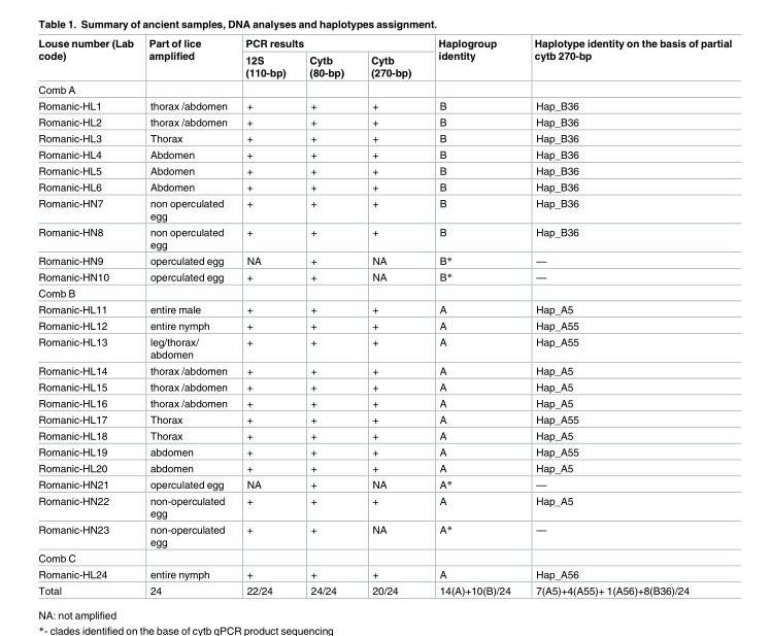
<table><thead><tr><td rowspan="2">Louse number (Lab code)</td><td rowspan="2">Part of lice amplified</td><td colspan="3">PCR results</td><td rowspan="2">Haplogroup identity</td><td rowspan="2">Haplotype identity on the basis of partial cytb 270-bp</td></tr><tr><td>12S (110-bp)</td><td>Cytb (80-bp)</td><td>Cytb (270-bp)</td></tr></thead><tbody><tr><td colspan="7">Comb A</td></tr><tr><td>Romanic-HL1</td><td>thorax /abdomen</td><td>+</td><td>+</td><td>+</td><td>B</td><td>Hap_B36</td></tr><tr><td>Romanic-HL2</td><td>thorax /abdomen</td><td>+</td><td>+</td><td>+</td><td>B</td><td>Hap_B36</td></tr><tr><td>Romanic-HL3</td><td>Thorax</td><td>+</td><td>+</td><td>+</td><td>B</td><td>Hap_B36</td></tr><tr><td>Romanic-HL4</td><td>Abdomen</td><td>+</td><td>+</td><td>+</td><td>B</td><td>Hap_B36</td></tr><tr><td>Romanic-HL5</td><td>Abdomen</td><td>+</td><td>+</td><td>+</td><td>B</td><td>Hap_B36</td></tr><tr><td>Romanic-HL6</td><td>Abdomen</td><td>+</td><td>+</td><td>+</td><td>B</td><td>Hap_B36</td></tr><tr><td>Romanic-HN7</td><td>non operculated egg</td><td>+</td><td>+</td><td>+</td><td>B</td><td>Hap_B36</td></tr><tr><td>Romanic-HN8</td><td>non operculated egg</td><td>+</td><td>+</td><td>+</td><td>B</td><td>Hap_B36</td></tr><tr><td>Romanic-HN9</td><td>operculated egg</td><td>NA</td><td>+</td><td>NA</td><td>B*</td><td>—</td></tr><tr><td>Romanic-HN10</td><td>operculated egg</td><td>+</td><td>+</td><td>NA</td><td>B*</td><td>—</td></tr><tr><td colspan="7">Comb B</td></tr><tr><td>Romanic-HL11</td><td>entire male</td><td>+</td><td>+</td><td>+</td><td>A</td><td>Hap_A5</td></tr><tr><td>Romanic-HL12</td><td>entire nymph</td><td>+</td><td>+</td><td>+</td><td>A</td><td>Hap_A55</td></tr><tr><td>Romanic-HL13</td><td>leg/thorax/ abdomen</td><td>+</td><td>+</td><td>+</td><td>A</td><td>Hap_A55</td></tr><tr><td>Romanic-HL14</td><td>thorax /abdomen</td><td>+</td><td>+</td><td>+</td><td>A</td><td>Hap_A5</td></tr><tr><td>Romanic-HL15</td><td>thorax /abdomen</td><td>+</td><td>+</td><td>+</td><td>A</td><td>Hap_A5</td></tr><tr><td>Romanic-HL16</td><td>thorax /abdomen</td><td>+</td><td>+</td><td>+</td><td>A</td><td>Hap_A5</td></tr><tr><td>Romanic-HL17</td><td>Thorax</td><td>+</td><td>+</td><td>+</td><td>A</td><td>Hap_A55</td></tr><tr><td>Romanic-HL18</td><td>Thorax</td><td>+</td><td>+</td><td>+</td><td>A</td><td>Hap_A5</td></tr><tr><td>Romanic-HL19</td><td>abdomen</td><td>+</td><td>+</td><td>+</td><td>A</td><td>Hap_A55</td></tr><tr><td>Romanic-HL20</td><td>abdomen</td><td>+</td><td>+</td><td>+</td><td>A</td><td>Hap_A5</td></tr><tr><td>Romanic-HN21</td><td>operculated egg</td><td>NA</td><td>+</td><td>NA</td><td>A*</td><td>—</td></tr><tr><td>Romanic-HN22</td><td>non-operculated egg</td><td>+</td><td>+</td><td>+</td><td>A</td><td>Hap_A5</td></tr><tr><td>Romanic-HN23</td><td>non-operculated egg</td><td>+</td><td>+</td><td>NA</td><td>A*</td><td>—</td></tr><tr><td colspan="7">Comb C</td></tr><tr><td>Romanic-HL24</td><td>entire nymph</td><td>+</td><td>+</td><td>+</td><td>A</td><td>Hap_A56</td></tr><tr><td>Total</td><td>24</td><td>22/24</td><td>24/24</td><td>20/24</td><td>14(A)+10(B)/24</td><td>7(A5)+4(A55)+ 1(A56)+8(B36)/24</td></tr></tbody></table>